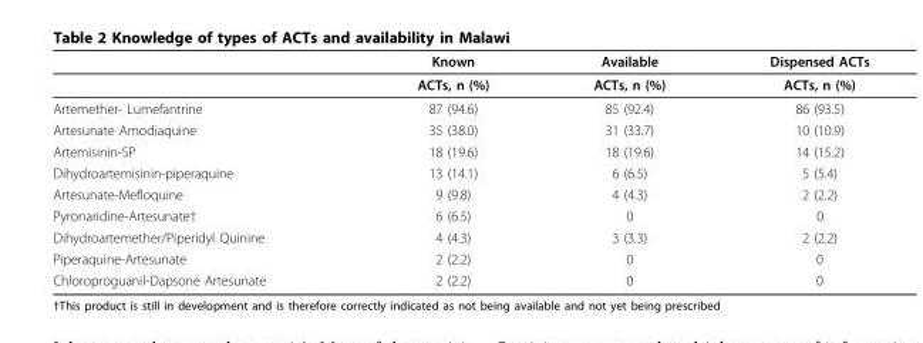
<table><thead><tr><td></td><td>Known</td><td>Available</td><td>Dispensed ACTs</td></tr></thead><tbody><tr><td></td><td>ACTs, n (%)</td><td>ACTs, n (%)</td><td>ACTs, n (%)</td></tr><tr><td>Artemether- Lumefantrine</td><td>87 (94.6)</td><td>85 (92.4)</td><td>86 (93.5)</td></tr><tr><td>Artesunate Amodiaquine</td><td>35 (38.0)</td><td>31 (33.7)</td><td>10 (10.9)</td></tr><tr><td>Artemisinin-SP</td><td>18 (19.6)</td><td>18 (19.6)</td><td>14 (15.2)</td></tr><tr><td>Dihydroartemisinin-piperaquine</td><td>13 (14.1)</td><td>6 (6.5)</td><td>5 (5.4)</td></tr><tr><td>Artesunate-Mefloquine</td><td>9 (9.8)</td><td>4 (4.3)</td><td>2 (2.2)</td></tr><tr><td>Pyronaridine-Artesunate†</td><td>6 (6.5)</td><td>0</td><td>0</td></tr><tr><td>Dihydroartemether/Piperidyl Quinine</td><td>4 (4.3)</td><td>3 (3.3)</td><td>2 (2.2)</td></tr><tr><td>Piperaquine-Artesunate</td><td>2 (2.2)</td><td>0</td><td>0</td></tr><tr><td>Chloroproguanil-Dapsone Artesunate</td><td>2 (2.2)</td><td>0</td><td>0</td></tr></tbody></table>